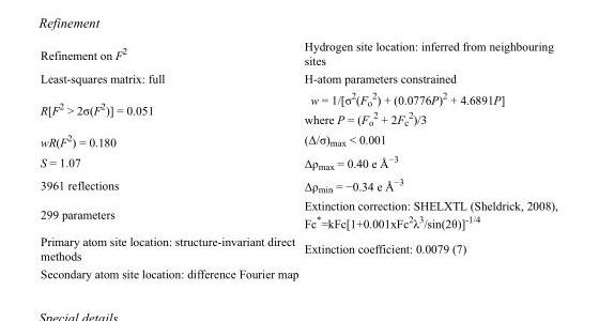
<table><tbody><tr><td>Refinement on F<sup>2</sup></td><td>Hydrogen site location: inferred from neighbouring sites</td></tr><tr><td>Least-squares matrix: full</td><td>H-atom parameters constrained</td></tr><tr><td>R[F<sup>2</sup> &gt; 2σ(F<sup>2</sup>)] = 0.051</td><td>w = 1/[σ<sup>2</sup>(F<sub>o</sub> <sup>2</sup>) + (0.0776P)<sup>2</sup> + 4.6891P] where P = (F<sub>o</sub> <sup>2</sup> + 2F<sub>c</sub> <sup>2</sup>)/3</td></tr><tr><td>wR(F<sup>2</sup>) = 0.180</td><td>(Δ/σ)<sub>max</sub> &lt; 0.001</td></tr><tr><td>S = 1.07</td><td>Δρ<sub>max</sub> = 0.40 e Å<sup>−3</sup></td></tr><tr><td>3961 reflections</td><td>Δρ<sub>min</sub> = −0.34 e Å<sup>−3</sup></td></tr><tr><td>299 parameters</td><td>Extinction correction: SHELXTL (Sheldrick, 2008), Fc*=kFc[1+0.001xFc<sup>2</sup>λ<sup>3</sup>/sin(2θ)]<sup>-1/4</sup></td></tr><tr><td>Primary atom site location: structure-invariant direct methods</td><td>Extinction coefficient: 0.0079 (7)</td></tr><tr><td>Secondary atom site location: difference Fourier map</td><td></td></tr></tbody></table>